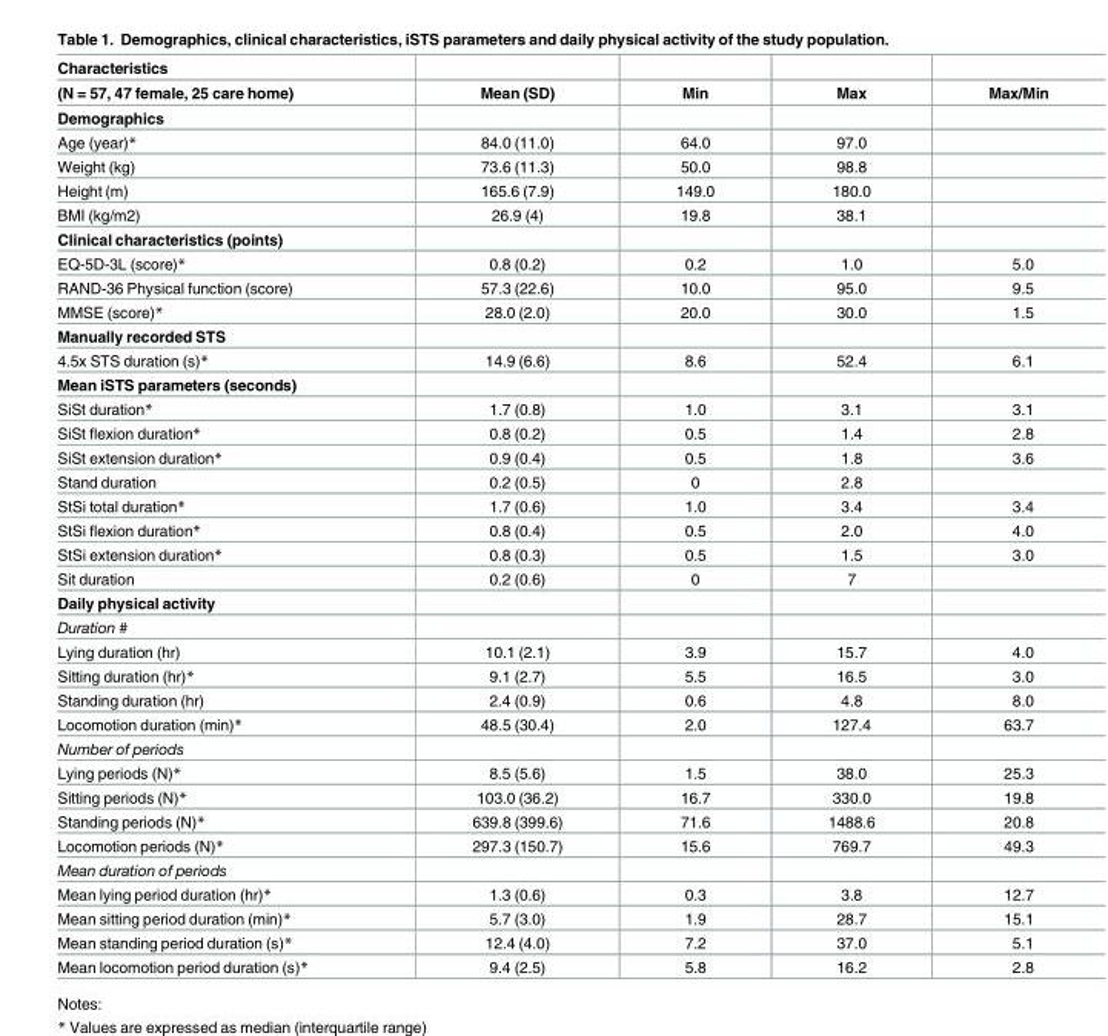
<table><thead><tr><td rowspan="2">Characteristics (N = 57, 47 female, 25 care home)</td><td rowspan="2">Mean (SD)</td><td rowspan="2">Min</td><td rowspan="2">Max</td><td rowspan="2">Max/Min</td></tr><tr></tr></thead><tbody><tr><td colspan="5">Demographics</td></tr><tr><td>Age (year)*</td><td>84.0 (11.0)</td><td>64.0</td><td>97.0</td><td></td></tr><tr><td>Weight (kg)</td><td>73.6 (11.3)</td><td>50.0</td><td>98.8</td><td></td></tr><tr><td>Height (m)</td><td>165.6 (7.9)</td><td>149.0</td><td>180.0</td><td></td></tr><tr><td>BMI (kg/m2)</td><td>26.9 (4)</td><td>19.8</td><td>38.1</td><td></td></tr><tr><td colspan="5">Clinical characteristics (points)</td></tr><tr><td>EQ-5D-3L (score)*</td><td>0.8 (0.2)</td><td>0.2</td><td>1.0</td><td>5.0</td></tr><tr><td>RAND-36 Physical function (score)</td><td>57.3 (22.6)</td><td>10.0</td><td>95.0</td><td>9.5</td></tr><tr><td>MMSE (score)*</td><td>28.0 (2.0)</td><td>20.0</td><td>30.0</td><td>1.5</td></tr><tr><td colspan="5">Manually recorded STS</td></tr><tr><td>4.5x STS duration (s)*</td><td>14.9 (6.6)</td><td>8.6</td><td>52.4</td><td>6.1</td></tr><tr><td colspan="5">Mean iSTS parameters (seconds)</td></tr><tr><td>SiSt duration*</td><td>1.7 (0.8)</td><td>1.0</td><td>3.1</td><td>3.1</td></tr><tr><td>SiSt flexion duration*</td><td>0.8 (0.2)</td><td>0.5</td><td>1.4</td><td>2.8</td></tr><tr><td>SiSt extension duration*</td><td>0.9 (0.4)</td><td>0.5</td><td>1.8</td><td>3.6</td></tr><tr><td>Stand duration</td><td>0.2 (0.5)</td><td>0</td><td>2.8</td><td></td></tr><tr><td>StSi total duration*</td><td>1.7 (0.6)</td><td>1.0</td><td>3.4</td><td>3.4</td></tr><tr><td>StSi flexion duration*</td><td>0.8 (0.4)</td><td>0.5</td><td>2.0</td><td>4.0</td></tr><tr><td>StSi extension duration*</td><td>0.8 (0.3)</td><td>0.5</td><td>1.5</td><td>3.0</td></tr><tr><td>Sit duration</td><td>0.2 (0.6)</td><td>0</td><td>7</td><td></td></tr><tr><td colspan="5">Daily physical activity</td></tr><tr><td colspan="5">Duration #</td></tr><tr><td>Lying duration (hr)</td><td>10.1 (2.1)</td><td>3.9</td><td>15.7</td><td>4.0</td></tr><tr><td>Sitting duration (hr)*</td><td>9.1 (2.7)</td><td>5.5</td><td>16.5</td><td>3.0</td></tr><tr><td>Standing duration (hr)</td><td>2.4 (0.9)</td><td>0.6</td><td>4.8</td><td>8.0</td></tr><tr><td>Locomotion duration (min)*</td><td>48.5 (30.4)</td><td>2.0</td><td>127.4</td><td>63.7</td></tr><tr><td colspan="5">Number of periods</td></tr><tr><td>Lying periods (N)*</td><td>8.5 (5.6)</td><td>1.5</td><td>38.0</td><td>25.3</td></tr><tr><td>Sitting periods (N)*</td><td>103.0 (36.2)</td><td>16.7</td><td>330.0</td><td>19.8</td></tr><tr><td>Standing periods (N)*</td><td>639.8 (399.6)</td><td>71.6</td><td>1488.6</td><td>20.8</td></tr><tr><td>Locomotion periods (N)*</td><td>297.3 (150.7)</td><td>15.6</td><td>769.7</td><td>49.3</td></tr><tr><td colspan="5">Mean duration of periods</td></tr><tr><td>Mean lying period duration (hr)*</td><td>1.3 (0.6)</td><td>0.3</td><td>3.8</td><td>12.7</td></tr><tr><td>Mean sitting period duration (min)*</td><td>5.7 (3.0)</td><td>1.9</td><td>28.7</td><td>15.1</td></tr><tr><td>Mean standing period duration (s)*</td><td>12.4 (4.0)</td><td>7.2</td><td>37.0</td><td>5.1</td></tr><tr><td>Mean locomotion period duration (s)*</td><td>9.4 (2.5)</td><td>5.8</td><td>16.2</td><td>2.8</td></tr></tbody></table>